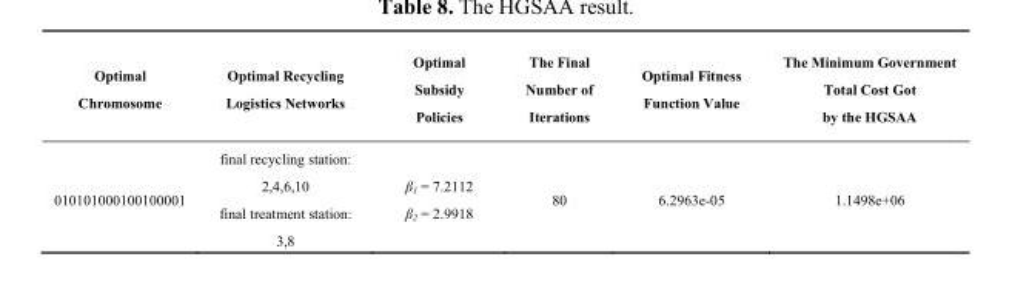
<table><thead><tr><td>Optimal Chromosome</td><td>Optimal Recycling Logistics Networks</td><td>Optimal Subsidy Policies</td><td>The Final Number of Iterations</td><td>Optimal Fitness Function Value</td><td>The Minimum Government Total Cost Got by the HGSAA</td></tr></thead><tbody><tr><td>010101000100100001</td><td>final recycling station: 2,4,6,10 final treatment station: 3,8</td><td>β<sub>1</sub> = 7.2112 β<sub>2</sub> = 2.9918</td><td>80</td><td>6.2963e-05</td><td>1.1498e+06</td></tr></tbody></table>